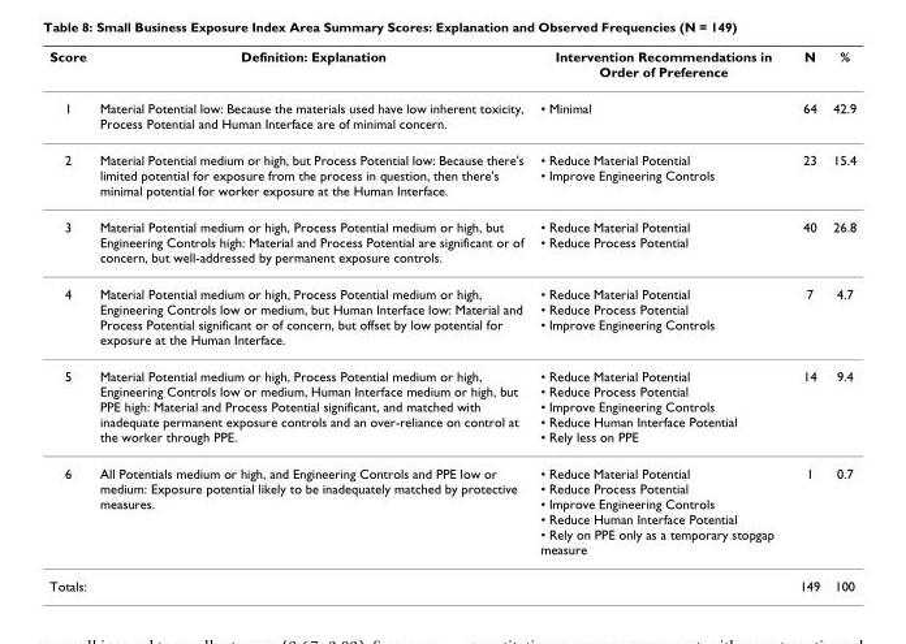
<table><thead><tr><td>Score</td><td>Definition: Explanation</td><td>Intervention Recommendations in Order of Preference</td><td>N</td><td>%</td></tr></thead><tbody><tr><td>1</td><td>Material Potential low: Because the materials used have low inherent toxicity, Process Potential and Human Interface are of minimal concern.</td><td>• Minimal</td><td>64</td><td>42.9</td></tr><tr><td>2</td><td>Material Potential medium or high, but Process Potential low: Because there&#x27;s limited potential for exposure from the process in question, then there&#x27;s minimal potential for worker exposure at the Human Interface.</td><td>• Reduce Material Potential • Improve Engineering Controls</td><td>23</td><td>15.4</td></tr><tr><td>3</td><td>Material Potential medium or high, Process Potential medium or high, but Engineering Controls high: Material and Process Potential are significant or of concern, but well-addressed by permanent exposure controls.</td><td>• Reduce Material Potential • Reduce Process Potential</td><td>40</td><td>26.8</td></tr><tr><td>4</td><td>Material Potential medium or high, Process Potential medium or high, Engineering Controls low or medium, but Human Interface low: Material and Process Potential significant or of concern, but offset by low potential for exposure at the Human Interface.</td><td>• Reduce Material Potential • Reduce Process Potential • Improve Engineering Controls</td><td>7</td><td>4.7</td></tr><tr><td>5</td><td>Material Potential medium or high, Process Potential medium or high, Engineering Controls low or medium, Human Interface medium or high, but PPE high: Material and Process Potential significant, and matched with inadequate permanent exposure controls and an over-reliance on control at the worker through PPE.</td><td>• Reduce Material Potential • Reduce Process Potential • Improve Engineering Controls • Reduce Human Interface Potential • Rely less on PPE</td><td>14</td><td>9.4</td></tr><tr><td>6</td><td>All Potentials medium or high, and Engineering Controls and PPE low or medium: Exposure potential likely to be inadequately matched by protective measures.</td><td>• Reduce Material Potential • Reduce Process Potential • Improve Engineering Controls • Reduce Human Interface Potential • Rely on PPE only as a temporary stopgap measure</td><td>1</td><td>0.7</td></tr><tr><td>Totals:</td><td></td><td></td><td>149</td><td>100</td></tr></tbody></table>